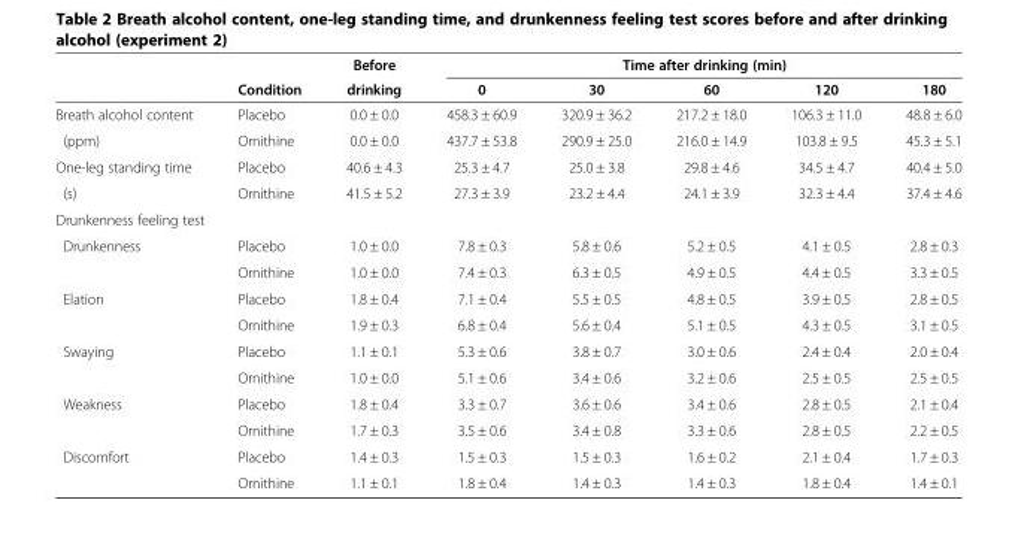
<table><thead><tr><td rowspan="2"></td><td rowspan="2">Condition</td><td rowspan="2">Before drinking</td><td colspan="5">Time after drinking (min)</td></tr><tr><td>0</td><td>30</td><td>60</td><td>120</td><td>180</td></tr></thead><tbody><tr><td>Breath alcohol content</td><td>Placebo</td><td>0.0 ± 0.0</td><td>458.3 ± 60.9</td><td>320.9 ± 36.2</td><td>217.2 ± 18.0</td><td>106.3 ± 11.0</td><td>48.8 ± 6.0</td></tr><tr><td>(ppm)</td><td>Ornithine</td><td>0.0 ± 0.0</td><td>437.7 ± 53.8</td><td>290.9 ± 25.0</td><td>216.0 ± 14.9</td><td>103.8 ± 9.5</td><td>45.3 ± 5.1</td></tr><tr><td>One-leg standing time</td><td>Placebo</td><td>40.6 ± 4.3</td><td>25.3 ± 4.7</td><td>25.0 ± 3.8</td><td>29.8 ± 4.6</td><td>34.5 ± 4.7</td><td>40.4 ± 5.0</td></tr><tr><td>(s)</td><td>Ornithine</td><td>41.5 ± 5.2</td><td>27.3 ± 3.9</td><td>23.2 ± 4.4</td><td>24.1 ± 3.9</td><td>32.3 ± 4.4</td><td>37.4 ± 4.6</td></tr><tr><td colspan="8">Drunkenness feeling test</td></tr><tr><td rowspan="2">Drunkenness</td><td>Placebo</td><td>1.0 ± 0.0</td><td>7.8 ± 0.3</td><td>5.8 ± 0.6</td><td>5.2 ± 0.5</td><td>4.1 ± 0.5</td><td>2.8 ± 0.3</td></tr><tr><td>Ornithine</td><td>1.0 ± 0.0</td><td>7.4 ± 0.3</td><td>6.3 ± 0.5</td><td>4.9 ± 0.5</td><td>4.4 ± 0.5</td><td>3.3 ± 0.5</td></tr><tr><td rowspan="2">Elation</td><td>Placebo</td><td>1.8 ± 0.4</td><td>7.1 ± 0.4</td><td>5.5 ± 0.5</td><td>4.8 ± 0.5</td><td>3.9 ± 0.5</td><td>2.8 ± 0.5</td></tr><tr><td>Ornithine</td><td>1.9 ± 0.3</td><td>6.8 ± 0.4</td><td>5.6 ± 0.4</td><td>5.1 ± 0.5</td><td>4.3 ± 0.5</td><td>3.1 ± 0.5</td></tr><tr><td rowspan="2">Swaying</td><td>Placebo</td><td>1.1 ± 0.1</td><td>5.3 ± 0.6</td><td>3.8 ± 0.7</td><td>3.0 ± 0.6</td><td>2.4 ± 0.4</td><td>2.0 ± 0.4</td></tr><tr><td>Ornithine</td><td>1.0 ± 0.0</td><td>5.1 ± 0.6</td><td>3.4 ± 0.6</td><td>3.2 ± 0.6</td><td>2.5 ± 0.5</td><td>2.5 ± 0.5</td></tr><tr><td rowspan="2">Weakness</td><td>Placebo</td><td>1.8 ± 0.4</td><td>3.3 ± 0.7</td><td>3.6 ± 0.6</td><td>3.4 ± 0.6</td><td>2.8 ± 0.5</td><td>2.1 ± 0.4</td></tr><tr><td>Ornithine</td><td>1.7 ± 0.3</td><td>3.5 ± 0.6</td><td>3.4 ± 0.8</td><td>3.3 ± 0.6</td><td>2.8 ± 0.5</td><td>2.2 ± 0.5</td></tr><tr><td rowspan="2">Discomfort</td><td>Placebo</td><td>1.4 ± 0.3</td><td>1.5 ± 0.3</td><td>1.5 ± 0.3</td><td>1.6 ± 0.2</td><td>2.1 ± 0.4</td><td>1.7 ± 0.3</td></tr><tr><td>Ornithine</td><td>1.1 ± 0.1</td><td>1.8 ± 0.4</td><td>1.4 ± 0.3</td><td>1.4 ± 0.3</td><td>1.8 ± 0.4</td><td>1.4 ± 0.1</td></tr></tbody></table>